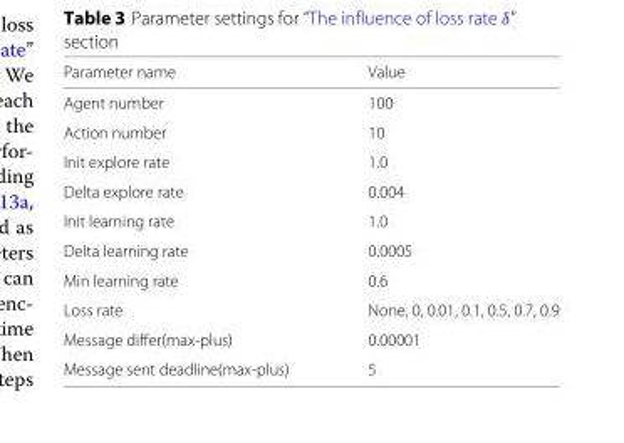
<table><thead><tr><td>Parameter name</td><td>Value</td></tr></thead><tbody><tr><td>Agent number</td><td>100</td></tr><tr><td>Action number</td><td>10</td></tr><tr><td>Init explore rate</td><td>1.0</td></tr><tr><td>Delta explore rate</td><td>0.004</td></tr><tr><td>Init learning rate</td><td>1.0</td></tr><tr><td>Delta learning rate</td><td>0.0005</td></tr><tr><td>Min learning rate</td><td>0.6</td></tr><tr><td>Loss rate</td><td>None, 0, 0.01, 0.1, 0.5, 0.7, 0.9</td></tr><tr><td>Message differ(max-plus)</td><td>0.00001</td></tr><tr><td>Message sent deadline(max-plus)</td><td>5</td></tr></tbody></table>